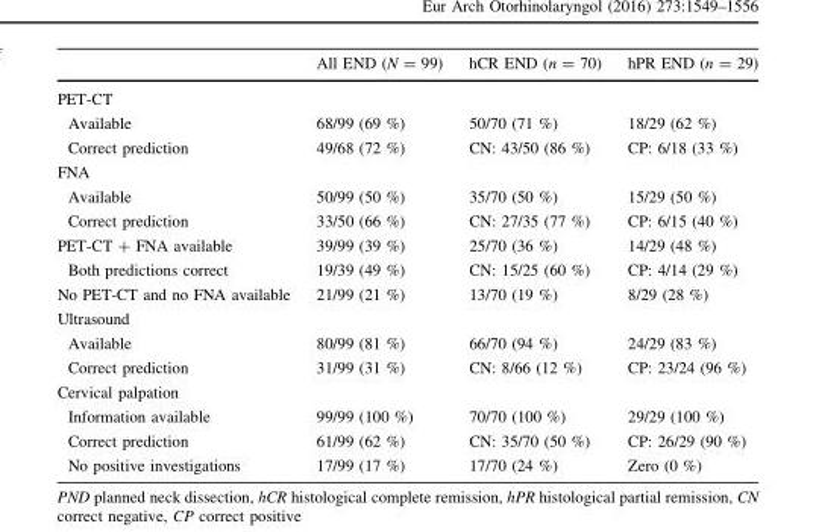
<table><thead><tr><td></td><td>All END (N = 99)</td><td>hCR END (n = 70)</td><td>hPR END (n = 29)</td></tr></thead><tbody><tr><td colspan="4">PET-CT</td></tr><tr><td>Available</td><td>68/99 (69 %)</td><td>50/70 (71 %)</td><td>18/29 (62 %)</td></tr><tr><td>Correct prediction</td><td>49/68 (72 %)</td><td>CN: 43/50 (86 %)</td><td>CP: 6/18 (33 %)</td></tr><tr><td colspan="4">FNA</td></tr><tr><td>Available</td><td>50/99 (50 %)</td><td>35/70 (50 %)</td><td>15/29 (50 %)</td></tr><tr><td>Correct prediction</td><td>33/50 (66 %)</td><td>CN: 27/35 (77 %)</td><td>CP: 6/15 (40 %)</td></tr><tr><td>PET-CT + FNA available</td><td>39/99 (39 %)</td><td>25/70 (36 %)</td><td>14/29 (48 %)</td></tr><tr><td>Both predictions correct</td><td>19/39 (49 %)</td><td>CN: 15/25 (60 %)</td><td>CP: 4/14 (29 %)</td></tr><tr><td>No PET-CT and no FNA available</td><td>21/99 (21 %)</td><td>13/70 (19 %)</td><td>8/29 (28 %)</td></tr><tr><td colspan="4">Ultrasound</td></tr><tr><td>Available</td><td>80/99 (81 %)</td><td>66/70 (94 %)</td><td>24/29 (83 %)</td></tr><tr><td>Correct prediction</td><td>31/99 (31 %)</td><td>CN: 8/66 (12 %)</td><td>CP: 23/24 (96 %)</td></tr><tr><td colspan="4">Cervical palpation</td></tr><tr><td>Information available</td><td>99/99 (100 %)</td><td>70/70 (100 %)</td><td>29/29 (100 %)</td></tr><tr><td>Correct prediction</td><td>61/99 (62 %)</td><td>CN: 35/70 (50 %)</td><td>CP: 26/29 (90 %)</td></tr><tr><td>No positive investigations</td><td>17/99 (17 %)</td><td>17/70 (24 %)</td><td>Zero (0 %)</td></tr></tbody></table>